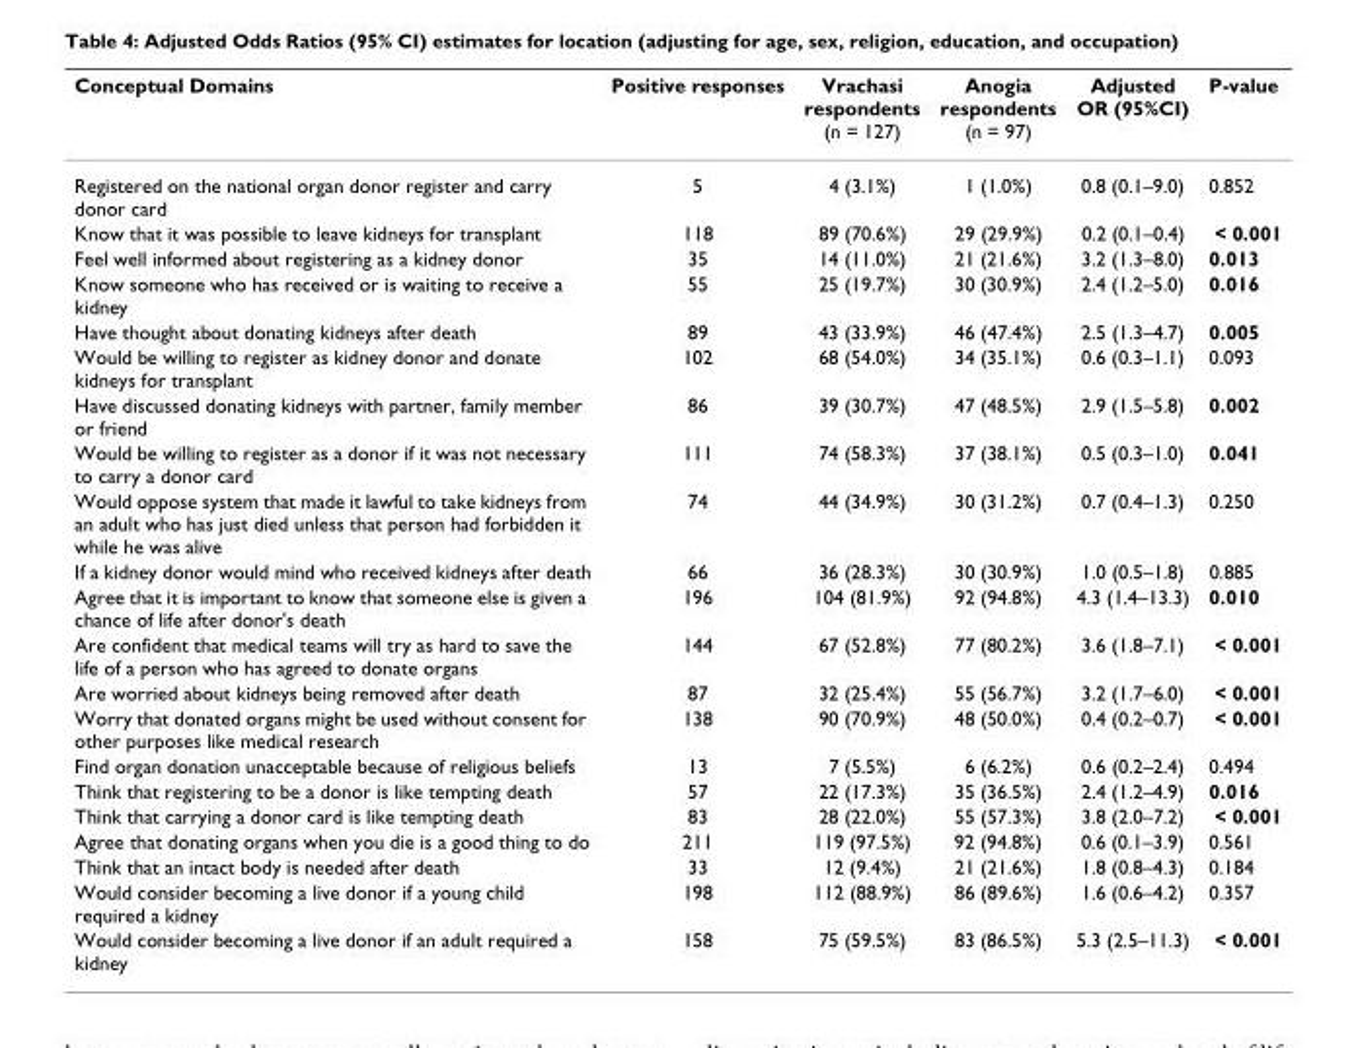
<table><thead><tr><td>Conceptual Domains</td><td>Positive responses</td><td>Vrachasi respondents (n = 127)</td><td>Anogia respondents (n = 97)</td><td>Adjusted OR (95%CI)</td><td>P-value</td></tr></thead><tbody><tr><td>Registered on the national organ donor register and carry donor card</td><td>5</td><td>4 (3.1%)</td><td>1 (1.0%)</td><td>0.8 (0.1–9.0)</td><td>0.852</td></tr><tr><td>Know that it was possible to leave kidneys for transplant</td><td>118</td><td>89 (70.6%)</td><td>29 (29.9%)</td><td>0.2 (0.1–0.4)</td><td>&lt; 0.001</td></tr><tr><td>Feel well informed about registering as a kidney donor</td><td>35</td><td>14 (11.0%)</td><td>21 (21.6%)</td><td>3.2 (1.3–8.0)</td><td>0.013</td></tr><tr><td>Know someone who has received or is waiting to receive a kidney</td><td>55</td><td>25 (19.7%)</td><td>30 (30.9%)</td><td>2.4 (1.2–5.0)</td><td>0.016</td></tr><tr><td>Have thought about donating kidneys after death</td><td>89</td><td>43 (33.9%)</td><td>46 (47.4%)</td><td>2.5 (1.3–4.7)</td><td>0.005</td></tr><tr><td>Would be willing to register as kidney donor and donate kidneys for transplant</td><td>102</td><td>68 (54.0%)</td><td>34 (35.1%)</td><td>0.6 (0.3–1.1)</td><td>0.093</td></tr><tr><td>Have discussed donating kidneys with partner, family member or friend</td><td>86</td><td>39 (30.7%)</td><td>47 (48.5%)</td><td>2.9 (1.5–5.8)</td><td>0.002</td></tr><tr><td>Would be willing to register as a donor if it was not necessary to carry a donor card</td><td>111</td><td>74 (58.3%)</td><td>37 (38.1%)</td><td>0.5 (0.3–1.0)</td><td>0.041</td></tr><tr><td>Would oppose system that made it lawful to take kidneys from an adult who has just died unless that person had forbidden it while he was alive</td><td>74</td><td>44 (34.9%)</td><td>30 (31.2%)</td><td>0.7 (0.4–1.3)</td><td>0.250</td></tr><tr><td>If a kidney donor would mind who received kidneys after death</td><td>66</td><td>36 (28.3%)</td><td>30 (30.9%)</td><td>1.0 (0.5–1.8)</td><td>0.885</td></tr><tr><td>Agree that it is important to know that someone else is given a chance of life after donor&#x27;s death</td><td>196</td><td>104 (81.9%)</td><td>92 (94.8%)</td><td>4.3 (1.4–13.3)</td><td>0.010</td></tr><tr><td>Are confident that medical teams will try as hard to save the life of a person who has agreed to donate organs</td><td>144</td><td>67 (52.8%)</td><td>77 (80.2%)</td><td>3.6 (1.8–7.1)</td><td>&lt; 0.001</td></tr><tr><td>Are worried about kidneys being removed after death</td><td>87</td><td>32 (25.4%)</td><td>55 (56.7%)</td><td>3.2 (1.7–6.0)</td><td>&lt; 0.001</td></tr><tr><td>Worry that donated organs might be used without consent for other purposes like medical research</td><td>138</td><td>90 (70.9%)</td><td>48 (50.0%)</td><td>0.4 (0.2–0.7)</td><td>&lt; 0.001</td></tr><tr><td>Find organ donation unacceptable because of religious beliefs</td><td>13</td><td>7 (5.5%)</td><td>6 (6.2%)</td><td>0.6 (0.2–2.4)</td><td>0.494</td></tr><tr><td>Think that registering to be a donor is like tempting death</td><td>57</td><td>22 (17.3%)</td><td>35 (36.5%)</td><td>2.4 (1.2–4.9)</td><td>0.016</td></tr><tr><td>Think that carrying a donor card is like tempting death</td><td>83</td><td>28 (22.0%)</td><td>55 (57.3%)</td><td>3.8 (2.0–7.2)</td><td>&lt; 0.001</td></tr><tr><td>Agree that donating organs when you die is a good thing to do</td><td>211</td><td>119 (97.5%)</td><td>92 (94.8%)</td><td>0.6 (0.1–3.9)</td><td>0.561</td></tr><tr><td>Think that an intact body is needed after death</td><td>33</td><td>12 (9.4%)</td><td>21 (21.6%)</td><td>1.8 (0.8–4.3)</td><td>0.184</td></tr><tr><td>Would consider becoming a live donor if a young child required a kidney</td><td>198</td><td>112 (88.9%)</td><td>86 (89.6%)</td><td>1.6 (0.6–4.2)</td><td>0.357</td></tr><tr><td>Would consider becoming a live donor if an adult required a kidney</td><td>158</td><td>75 (59.5%)</td><td>83 (86.5%)</td><td>5.3 (2.5–11.3)</td><td>&lt; 0.001</td></tr></tbody></table>